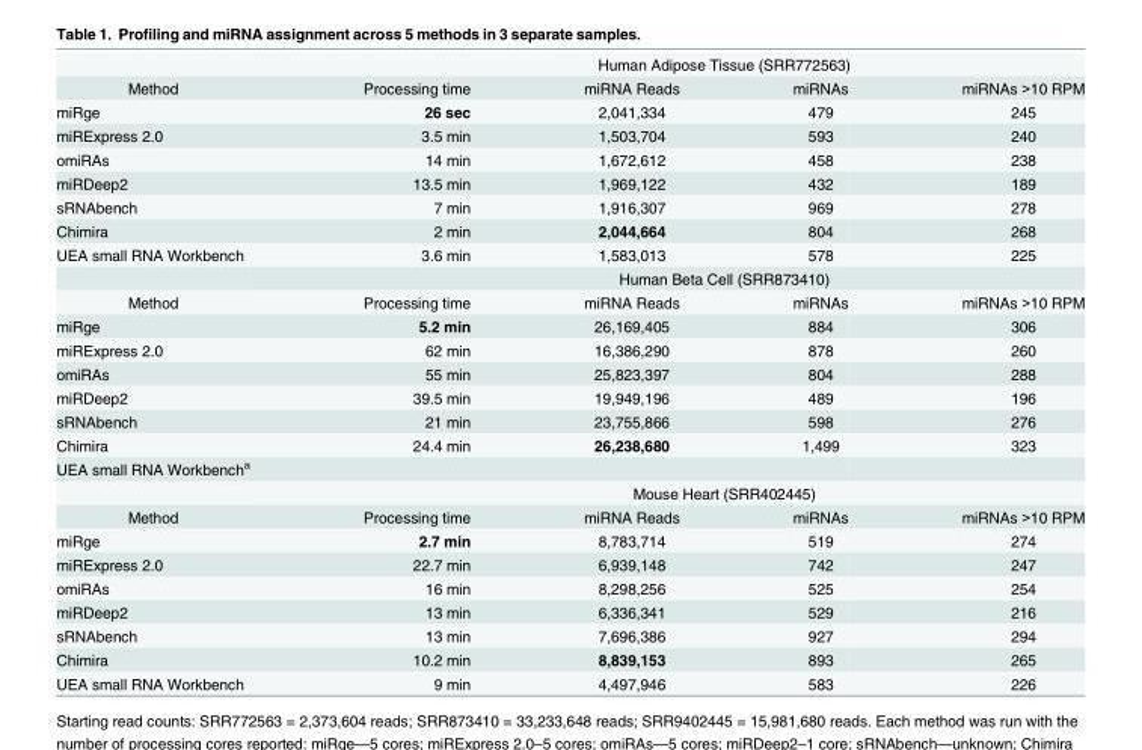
<table><thead><tr><td rowspan="2">Method</td><td colspan="4">Human Adipose Tissue (SRR772563)</td></tr><tr><td>Processing time</td><td>miRNA Reads</td><td>miRNAs</td><td>miRNAs &gt;10 RPM</td></tr></thead><tbody><tr><td>miRge</td><td>26 sec</td><td>2,041,334</td><td>479</td><td>245</td></tr><tr><td>miRExpress 2.0</td><td>3.5 min</td><td>1,503,704</td><td>593</td><td>240</td></tr><tr><td>omiRAs</td><td>14 min</td><td>1,672,612</td><td>458</td><td>238</td></tr><tr><td>miRDeep2</td><td>13.5 min</td><td>1,969,122</td><td>432</td><td>189</td></tr><tr><td>sRNAbench</td><td>7 min</td><td>1,916,307</td><td>969</td><td>278</td></tr><tr><td>Chimira</td><td>2 min</td><td>2,044,664</td><td>804</td><td>268</td></tr><tr><td rowspan="2">UEA small RNA Workbench</td><td>3.6 min</td><td>1,583,013</td><td>578</td><td>225</td></tr><tr><td colspan="4">Human Beta Cell (SRR873410)</td></tr><tr><td>Method</td><td>Processing time</td><td>miRNA Reads</td><td>miRNAs</td><td>miRNAs &gt;10 RPM</td></tr><tr><td>miRge</td><td>5.2 min</td><td>26,169,405</td><td>884</td><td>306</td></tr><tr><td>miRExpress 2.0</td><td>62 min</td><td>16,386,290</td><td>878</td><td>260</td></tr><tr><td>omiRAs</td><td>55 min</td><td>25,823,397</td><td>804</td><td>288</td></tr><tr><td>miRDeep2</td><td>39.5 min</td><td>19,949,196</td><td>489</td><td>196</td></tr><tr><td>sRNAbench</td><td>21 min</td><td>23,755,866</td><td>598</td><td>276</td></tr><tr><td>Chimira</td><td>24.4 min</td><td>26,238,680</td><td>1,499</td><td>323</td></tr><tr><td colspan="5">UEA small RNA Workbench<sup>a</sup></td></tr><tr><td></td><td colspan="4">Mouse Heart (SRR402445)</td></tr><tr><td>Method</td><td>Processing time</td><td>miRNA Reads</td><td>miRNAs</td><td>miRNAs &gt;10 RPM</td></tr><tr><td>miRge</td><td>2.7 min</td><td>8,783,714</td><td>519</td><td>274</td></tr><tr><td>miRExpress 2.0</td><td>22.7 min</td><td>6,939,148</td><td>742</td><td>247</td></tr><tr><td>omiRAs</td><td>16 min</td><td>8,298,256</td><td>525</td><td>254</td></tr><tr><td>miRDeep2</td><td>13 min</td><td>6,336,341</td><td>529</td><td>216</td></tr><tr><td>sRNAbench</td><td>13 min</td><td>7,696,386</td><td>927</td><td>294</td></tr><tr><td>Chimira</td><td>10.2 min</td><td>8,839,153</td><td>893</td><td>265</td></tr><tr><td>UEA small RNA Workbench</td><td>9 min</td><td>4,497,946</td><td>583</td><td>226</td></tr></tbody></table>